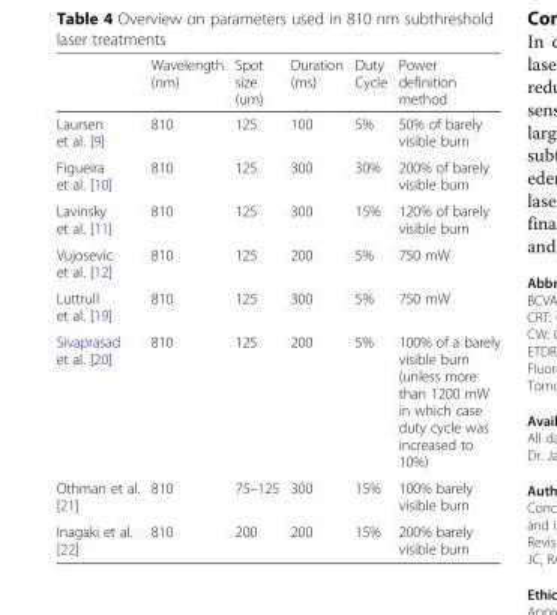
<table><thead><tr><td></td><td>Wavelength (nm)</td><td>Spot size (um)</td><td>Duration (ms)</td><td>Duty Cycle</td><td>Power definition method</td></tr></thead><tbody><tr><td>Laursen et al. [9]</td><td>810</td><td>125</td><td>100</td><td>5%</td><td>50% of barely visible burn</td></tr><tr><td>Figueira et al. [10]</td><td>810</td><td>125</td><td>300</td><td>30%</td><td>200% of barely visible burn</td></tr><tr><td>Lavinsky et al. [11]</td><td>810</td><td>125</td><td>300</td><td>15%</td><td>120% of barely visible burn</td></tr><tr><td>Vujosevic et al. [12]</td><td>810</td><td>125</td><td>200</td><td>5%</td><td>750 mW</td></tr><tr><td>Luttrull et al. [19]</td><td>810</td><td>125</td><td>300</td><td>5%</td><td>750 mW</td></tr><tr><td>Sivaprasad et al. [20]</td><td>810</td><td>125</td><td>200</td><td>5%</td><td>100% of a barely visible burn (unless more than 1200 mW in which case duty cycle was increased to 10%)</td></tr><tr><td>Othman et al. [21]</td><td>810</td><td>75–125</td><td>300</td><td>15%</td><td>100% barely visible burn</td></tr><tr><td>Inagaki et al. [22]</td><td>810</td><td>200</td><td>200</td><td>15%</td><td>200% barely visible burn</td></tr></tbody></table>